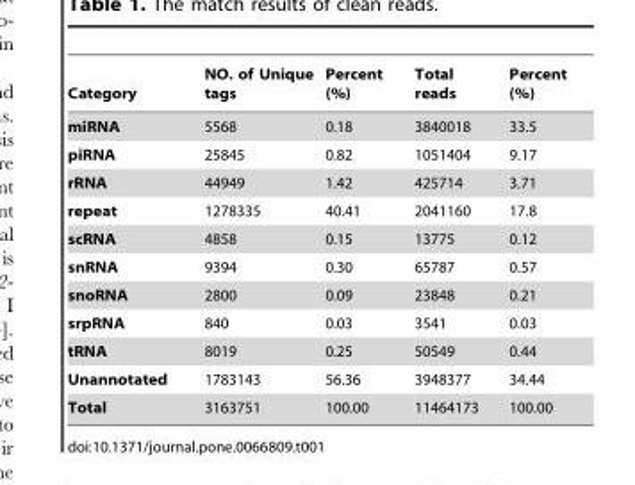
<table><thead><tr><td>Category</td><td>NO. of Unique tags</td><td>Percent (%)</td><td>Total reads</td><td>Percent (%)</td></tr></thead><tbody><tr><td>miRNA</td><td>5568</td><td>0.18</td><td>3840018</td><td>33.5</td></tr><tr><td>piRNA</td><td>25845</td><td>0.82</td><td>1051404</td><td>9.17</td></tr><tr><td>rRNA</td><td>44949</td><td>1.42</td><td>425714</td><td>3.71</td></tr><tr><td>repeat</td><td>1278335</td><td>40.41</td><td>2041160</td><td>17.8</td></tr><tr><td>scRNA</td><td>4858</td><td>0.15</td><td>13775</td><td>0.12</td></tr><tr><td>snRNA</td><td>9394</td><td>0.30</td><td>65787</td><td>0.57</td></tr><tr><td>snoRNA</td><td>2800</td><td>0.09</td><td>23848</td><td>0.21</td></tr><tr><td>srpRNA</td><td>840</td><td>0.03</td><td>3541</td><td>0.03</td></tr><tr><td>tRNA</td><td>8019</td><td>0.25</td><td>50549</td><td>0.44</td></tr><tr><td>Unannotated</td><td>1783143</td><td>56.36</td><td>3948377</td><td>34.44</td></tr><tr><td>Total</td><td>3163751</td><td>100.00</td><td>11464173</td><td>100.00</td></tr></tbody></table>